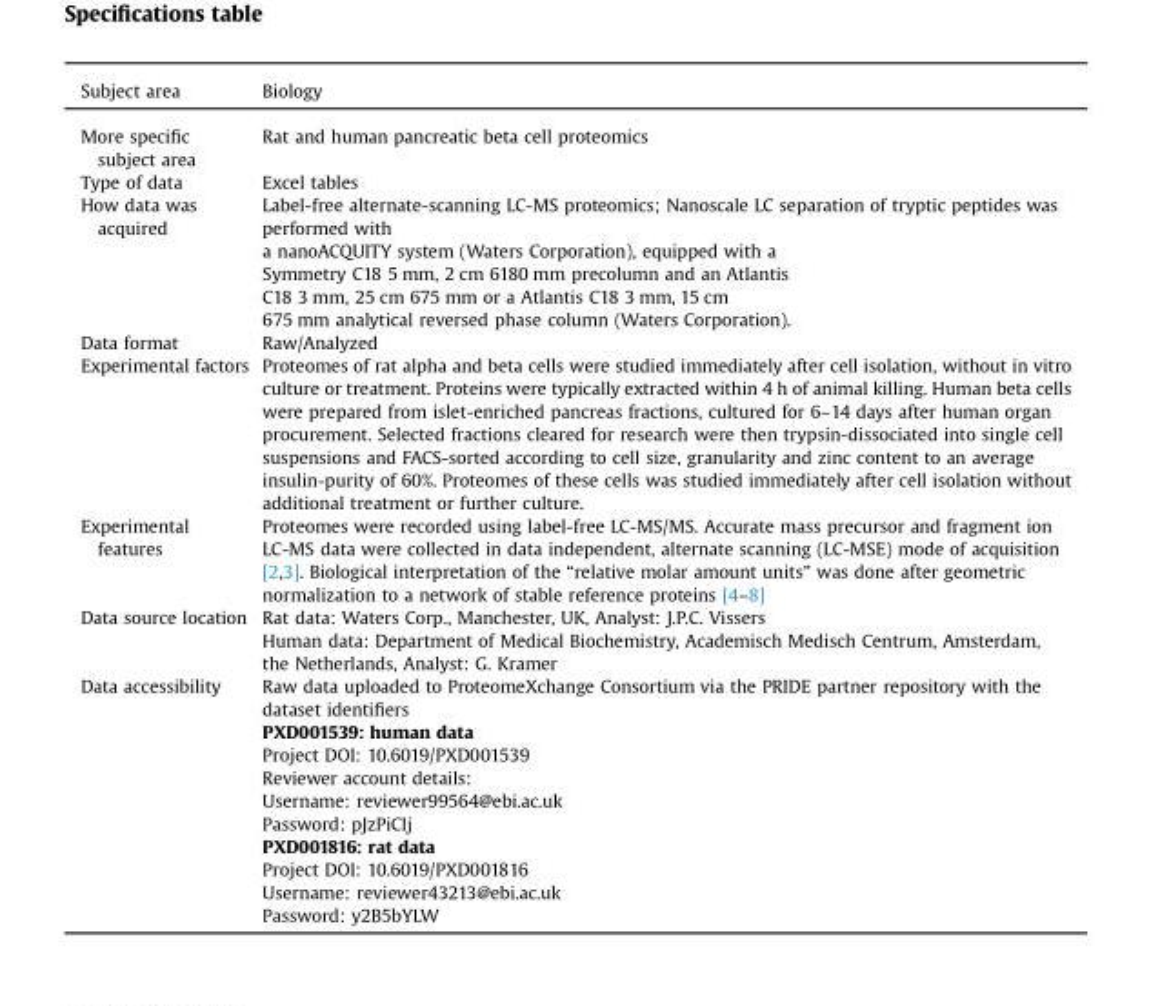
<table><thead><tr><td>Subject area</td><td>Biology</td></tr></thead><tbody><tr><td>More specific subject area</td><td>Rat and human pancreatic beta cell proteomics</td></tr><tr><td>Type of data</td><td>Excel tables</td></tr><tr><td rowspan="5">How data was acquired</td><td>Label-free alternate-scanning LC-MS proteomics; Nanoscale LC separation of tryptic peptides was performed with</td></tr><tr><td>a nanoACQUITY system (Waters Corporation), equipped with a</td></tr><tr><td>Symmetry C18 5 mm, 2 cm 6180 mm precolumn and an Atlantis</td></tr><tr><td>C18 3 mm, 25 cm 675 mm or a Atlantis C18 3 mm, 15 cm</td></tr><tr><td>675 mm analytical reversed phase column (Waters Corporation).</td></tr><tr><td>Data format</td><td>Raw/Analyzed</td></tr><tr><td>Experimental factors</td><td>Proteomes of rat alpha and beta cells were studied immediately after cell isolation, without in vitro culture or treatment. Proteins were typically extracted within 4 h of animal killing. Human beta cells were prepared from islet-enriched pancreas fractions, cultured for 6–14 days after human organ procurement. Selected fractions cleared for research were then trypsin-dissociated into single cell suspensions and FACS-sorted according to cell size, granularity and zinc content to an average insulin-purity of 60%. Proteomes of these cells was studied immediately after cell isolation without additional treatment or further culture.</td></tr><tr><td>Experimental features</td><td>Proteomes were recorded using label-free LC-MS/MS. Accurate mass precursor and fragment ion LC-MS data were collected in data independent, alternate scanning (LC-MSE) mode of acquisition [2,3]. Biological interpretation of the “relative molar amount units” was done after geometric normalization to a network of stable reference proteins [4–8]</td></tr><tr><td rowspan="2">Data source location</td><td>Rat data: Waters Corp., Manchester, UK, Analyst: J.P.C. Vissers</td></tr><tr><td>Human data: Department of Medical Biochemistry, Academisch Medisch Centrum, Amsterdam, the Netherlands, Analyst: G. Kramer</td></tr><tr><td rowspan="10">Data accessibility</td><td>Raw data uploaded to ProteomeXchange Consortium via the PRIDE partner repository with the dataset identifiers</td></tr><tr><td>PXD001539: human data</td></tr><tr><td>Project DOI: 10.6019/PXD001539</td></tr><tr><td>Reviewer account details:</td></tr><tr><td>Username: reviewer99564@ebi.ac.uk</td></tr><tr><td>Password: pJzPiCIj</td></tr><tr><td>PXD001816: rat data</td></tr><tr><td>Project DOI: 10.6019/PXD001816</td></tr><tr><td>Username: reviewer43213@ebi.ac.uk</td></tr><tr><td>Password: y2B5bYLW</td></tr></tbody></table>